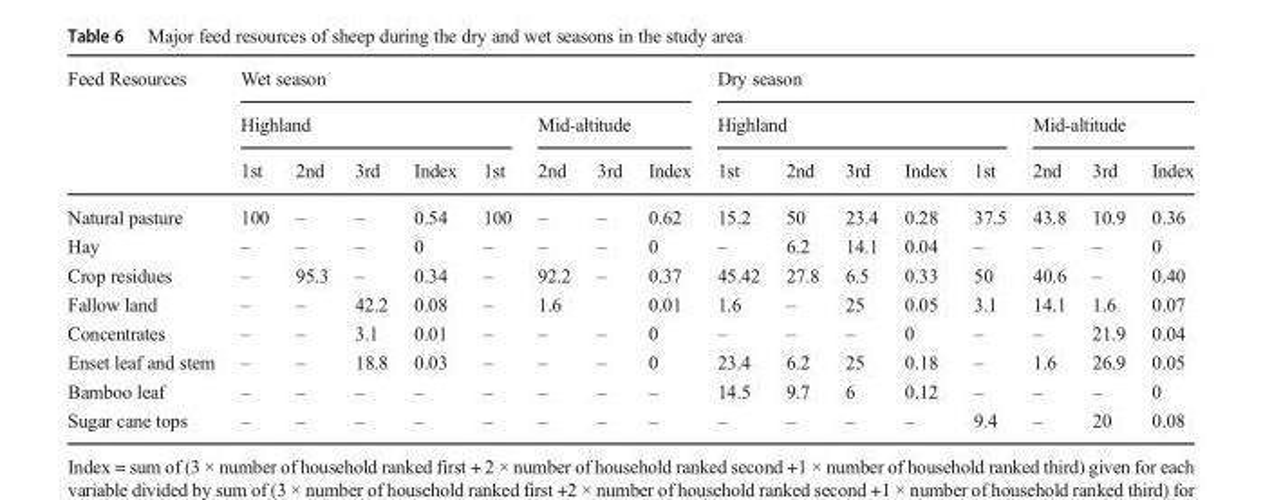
<table><thead><tr><td rowspan="3">Feed Resources</td><td colspan="8">Wet season</td><td colspan="8">Dry season</td></tr><tr><td colspan="5">Highland</td><td colspan="3">Mid-altitude</td><td colspan="5">Highland</td><td colspan="3">Mid-altitude</td></tr><tr><td>1st</td><td>2nd</td><td>3rd</td><td>Index</td><td>1st</td><td>2nd</td><td>3rd</td><td>Index</td><td>1st</td><td>2nd</td><td>3rd</td><td>Index</td><td>1st</td><td>2nd</td><td>3rd</td><td>Index</td></tr></thead><tbody><tr><td>Natural pasture</td><td>100</td><td>–</td><td>–</td><td>0.54</td><td>100</td><td>–</td><td>–</td><td>0.62</td><td>15.2</td><td>50</td><td>23.4</td><td>0.28</td><td>37.5</td><td>43.8</td><td>10.9</td><td>0.36</td></tr><tr><td>Hay</td><td>–</td><td>–</td><td>–</td><td>0</td><td>–</td><td>–</td><td>–</td><td>0</td><td>–</td><td>6.2</td><td>14.1</td><td>0.04</td><td>–</td><td>–</td><td>–</td><td>0</td></tr><tr><td>Crop residues</td><td>–</td><td>95.3</td><td>–</td><td>0.34</td><td>–</td><td>92.2</td><td>–</td><td>0.37</td><td>45.42</td><td>27.8</td><td>6.5</td><td>0.33</td><td>50</td><td>40.6</td><td>–</td><td>0.40</td></tr><tr><td>Fallow land</td><td>–</td><td>–</td><td>42.2</td><td>0.08</td><td>–</td><td>1.6</td><td></td><td>0.01</td><td>1.6</td><td>–</td><td>25</td><td>0.05</td><td>3.1</td><td>14.1</td><td>1.6</td><td>0.07</td></tr><tr><td>Concentrates</td><td>–</td><td>–</td><td>3.1</td><td>0.01</td><td>–</td><td>–</td><td>–</td><td>0</td><td>–</td><td>–</td><td>–</td><td>0</td><td>–</td><td>–</td><td>21.9</td><td>0.04</td></tr><tr><td>Enset leaf and stem</td><td>–</td><td>–</td><td>18.8</td><td>0.03</td><td>–</td><td>–</td><td>–</td><td>0</td><td>23.4</td><td>6.2</td><td>25</td><td>0.18</td><td>–</td><td>1.6</td><td>26.9</td><td>0.05</td></tr><tr><td>Bamboo leaf</td><td>–</td><td>–</td><td>–</td><td>–</td><td>–</td><td>–</td><td>–</td><td>–</td><td>14.5</td><td>9.7</td><td>6</td><td>0.12</td><td>–</td><td>–</td><td>–</td><td>0</td></tr><tr><td>Sugar cane tops</td><td>–</td><td>–</td><td>–</td><td>–</td><td>–</td><td>–</td><td>–</td><td>–</td><td>–</td><td>–</td><td>–</td><td>–</td><td>9.4</td><td>–</td><td>20</td><td>0.08</td></tr></tbody></table>